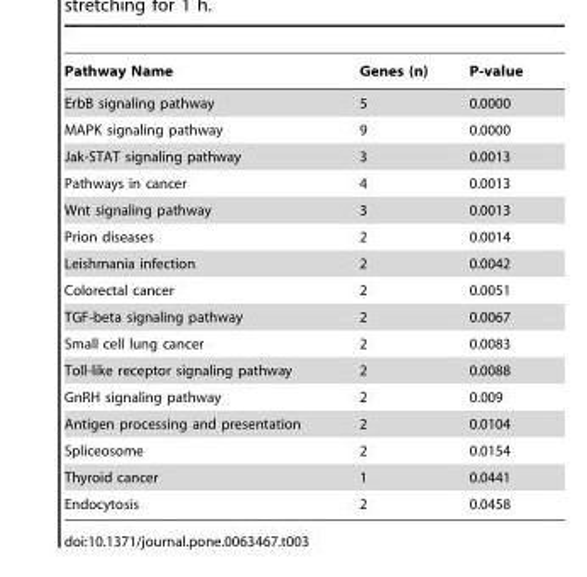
<table><thead><tr><td>Pathway Name</td><td>Genes (n)</td><td>P-value</td></tr></thead><tbody><tr><td>ErbB signaling pathway</td><td>5</td><td>0.0000</td></tr><tr><td>MAPK signaling pathway</td><td>9</td><td>0.0000</td></tr><tr><td>Jak-STAT signaling pathway</td><td>3</td><td>0.0013</td></tr><tr><td>Pathways in cancer</td><td>4</td><td>0.0013</td></tr><tr><td>Wnt signaling pathway</td><td>3</td><td>0.0013</td></tr><tr><td>Prion diseases</td><td>2</td><td>0.0014</td></tr><tr><td>Leishmania infection</td><td>2</td><td>0.0042</td></tr><tr><td>Colorectal cancer</td><td>2</td><td>0.0051</td></tr><tr><td>TGF-beta signaling pathway</td><td>2</td><td>0.0067</td></tr><tr><td>Small cell lung cancer</td><td>2</td><td>0.0083</td></tr><tr><td>Toll-like receptor signaling pathway</td><td>2</td><td>0.0088</td></tr><tr><td>GnRH signaling pathway</td><td>2</td><td>0.009</td></tr><tr><td>Antigen processing and presentation</td><td>2</td><td>0.0104</td></tr><tr><td>Spliceosome</td><td>2</td><td>0.0154</td></tr><tr><td>Thyroid cancer</td><td>1</td><td>0.0441</td></tr><tr><td>Endocytosis</td><td>2</td><td>0.0458</td></tr></tbody></table>